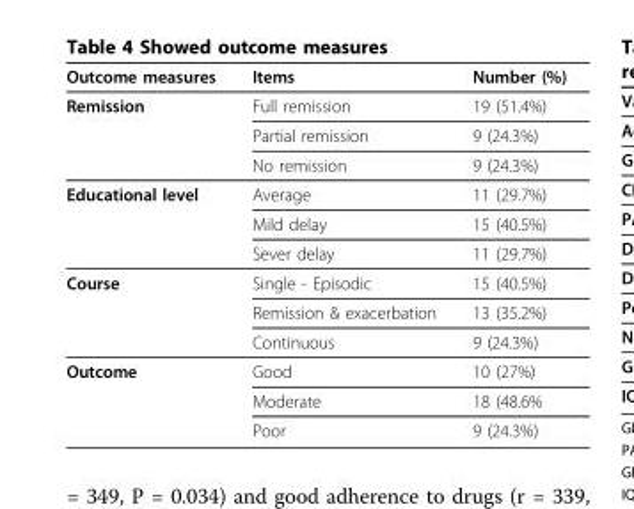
<table><thead><tr><td>Outcome measures</td><td>Items</td><td>Number (%)</td></tr></thead><tbody><tr><td rowspan="3">Remission</td><td>Full remission</td><td>19 (51.4%)</td></tr><tr><td>Partial remission</td><td>9 (24.3%)</td></tr><tr><td>No remission</td><td>9 (24.3%)</td></tr><tr><td rowspan="3">Educational level</td><td>Average</td><td>11 (29.7%)</td></tr><tr><td>Mild delay</td><td>15 (40.5%)</td></tr><tr><td>Sever delay</td><td>11 (29.7%)</td></tr><tr><td rowspan="3">Course</td><td>Single - Episodic</td><td>15 (40.5%)</td></tr><tr><td>Remission &amp; exacerbation</td><td>13 (35.2%)</td></tr><tr><td>Continuous</td><td>9 (24.3%)</td></tr><tr><td rowspan="3">Outcome</td><td>Good</td><td>10 (27%)</td></tr><tr><td>Moderate</td><td>18 (48.6%</td></tr><tr><td>Poor</td><td>9 (24.3%)</td></tr></tbody></table>